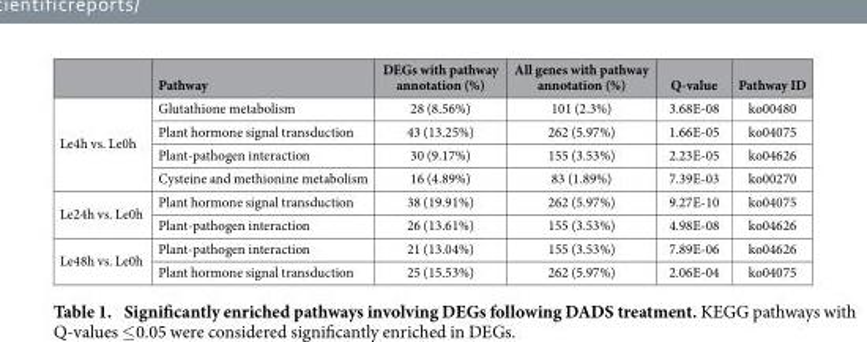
<table><thead><tr><td></td><td>Pathway</td><td>DEGs with pathway annotation (%)</td><td>All genes with pathway annotation (%)</td><td>Q-value</td><td>Pathway ID</td></tr></thead><tbody><tr><td rowspan="4">Le4h vs. Le0h</td><td>Glutathione metabolism</td><td>28 (8.56%)</td><td>101 (2.3%)</td><td>3.68E-08</td><td>ko00480</td></tr><tr><td>Plant hormone signal transduction</td><td>43 (13.25%)</td><td>262 (5.97%)</td><td>1.66E-05</td><td>ko04075</td></tr><tr><td>Plant-pathogen interaction</td><td>30 (9.17%)</td><td>155 (3.53%)</td><td>2.23E-05</td><td>ko04626</td></tr><tr><td>Cysteine and methionine metabolism</td><td>16 (4.89%)</td><td>83 (1.89%)</td><td>7.39E-03</td><td>ko00270</td></tr><tr><td rowspan="2">Le24h vs. Le0h</td><td>Plant hormone signal transduction</td><td>38 (19.91%)</td><td>262 (5.97%)</td><td>9.27E-10</td><td>ko04075</td></tr><tr><td>Plant-pathogen interaction</td><td>26 (13.61%)</td><td>155 (3.53%)</td><td>4.98E-08</td><td>ko04626</td></tr><tr><td rowspan="2">Le48h vs. Le0h</td><td>Plant-pathogen interaction</td><td>21 (13.04%)</td><td>155 (3.53%)</td><td>7.89E-06</td><td>ko04626</td></tr><tr><td>Plant hormone signal transduction</td><td>25 (15.53%)</td><td>262 (5.97%)</td><td>2.06E-04</td><td>ko04075</td></tr></tbody></table>